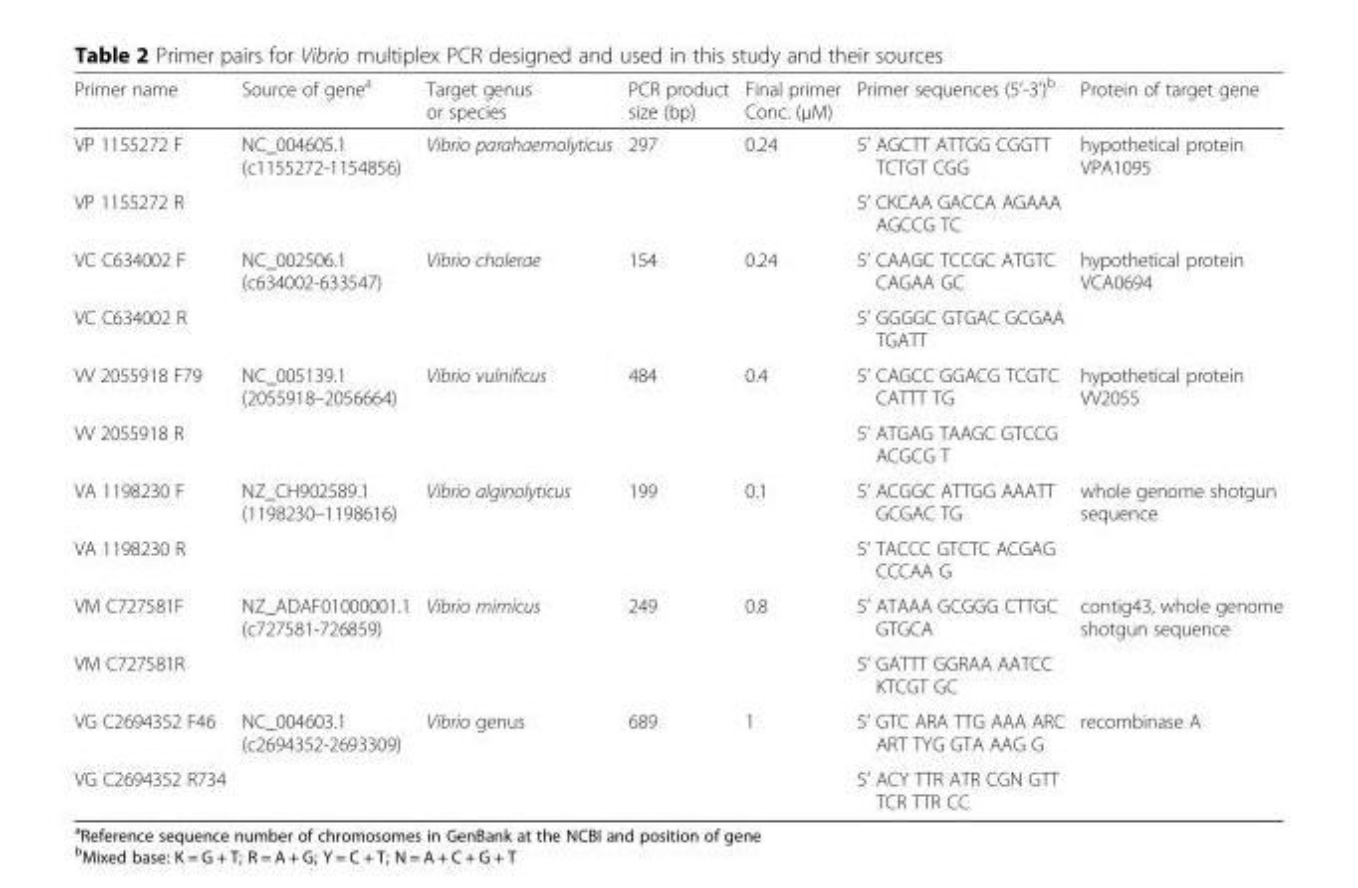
<table><thead><tr><td>Primer name</td><td>Source of gene<sup>a</sup></td><td>Target genus or species</td><td>PCR product size (bp)</td><td>Final primer Conc. (μM)</td><td>Primer sequences (5’-3’)<sup>b</sup></td><td>Protein of target gene</td></tr></thead><tbody><tr><td>VP 1155272 F</td><td rowspan="2">NC_004605.1 (c1155272-1154856)</td><td rowspan="2">Vibrio parahaemolyticus</td><td rowspan="2">297</td><td rowspan="2">0.24</td><td>5’ AGCTT ATTGG CGGTT TCTGT CGG</td><td rowspan="2">hypothetical protein VPA1095</td></tr><tr><td>VP 1155272 R</td><td>5’ CKCAA GACCA AGAAA AGCCG TC</td></tr><tr><td>VC C634002 F</td><td rowspan="2">NC_002506.1 (c634002-633547)</td><td rowspan="2">Vibrio cholerae</td><td rowspan="2">154</td><td rowspan="2">0.24</td><td>5’ CAAGC TCCGC ATGTC CAGAA GC</td><td rowspan="2">hypothetical protein VCA0694</td></tr><tr><td>VC C634002 R</td><td>5’ GGGGC GTGAC GCGAA TGATT</td></tr><tr><td>VV 2055918 F79</td><td rowspan="2">NC_005139.1 (2055918–2056664)</td><td rowspan="2">Vibrio vulnificus</td><td rowspan="2">484</td><td rowspan="2">0.4</td><td>5’ CAGCC GGACG TCGTC CATTT TG</td><td rowspan="2">hypothetical protein VV2055</td></tr><tr><td>VV 2055918 R</td><td>5’ ATGAG TAAGC GTCCG ACGCG T</td></tr><tr><td>VA 1198230 F</td><td rowspan="2">NZ_CH902589.1 (1198230–1198616)</td><td rowspan="2">Vibrio alginolyticus</td><td rowspan="2">199</td><td rowspan="2">0.1</td><td>5’ ACGGC ATTGG AAATT GCGAC TG</td><td rowspan="2">whole genome shotgun sequence</td></tr><tr><td>VA 1198230 R</td><td>5’ TACCC GTCTC ACGAG CCCAA G</td></tr><tr><td>VM C727581F</td><td rowspan="2">NZ_ADAF01000001.1 (c727581-726859)</td><td rowspan="2">Vibrio mimicus</td><td rowspan="2">249</td><td rowspan="2">0.8</td><td>5’ ATAAA GCGGG CTTGC GTGCA</td><td rowspan="2">contig43, whole genome shotgun sequence</td></tr><tr><td>VM C727581R</td><td>5’ GATTT GGRAA AATCC KTCGT GC</td></tr><tr><td>VG C2694352 F46</td><td rowspan="2">NC_004603.1 (c2694352-2693309)</td><td rowspan="2">Vibrio genus</td><td rowspan="2">689</td><td rowspan="2">1</td><td>5’ GTC ARA TTG AAA ARC ART TYG GTA AAG G</td><td rowspan="2">recombinase A</td></tr><tr><td>VG C2694352 R734</td><td>5’ ACY TTR ATR CGN GTT TCR TTR CC</td></tr></tbody></table>